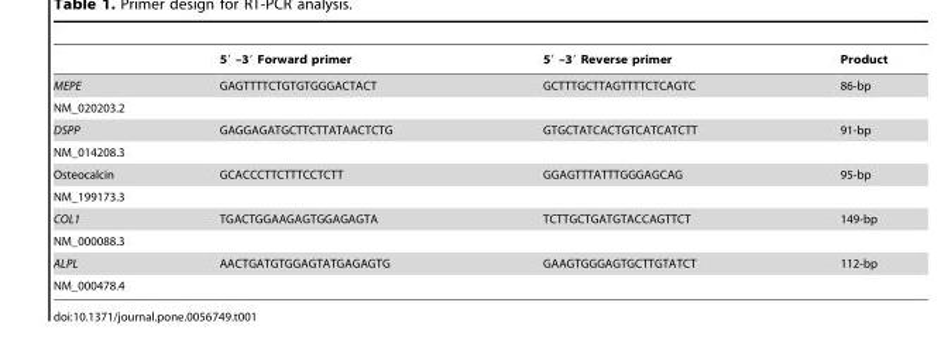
<table><thead><tr><td></td><td>5′ –3′ Forward primer</td><td>5′ –3′ Reverse primer</td><td>Product</td></tr></thead><tbody><tr><td>MEPE</td><td>GAGTTTTCTGTGTGGGACTACT</td><td>GCTTTGCTTAGTTTTCTCAGTC</td><td>86-bp</td></tr><tr><td colspan="4">NM_020203.2</td></tr><tr><td>DSPP</td><td>GAGGAGATGCTTCTTATAACTCTG</td><td>GTGCTATCACTGTCATCATCTT</td><td>91-bp</td></tr><tr><td colspan="4">NM_014208.3</td></tr><tr><td>Osteocalcin</td><td>GCACCCTTCTTTCCTCTT</td><td>GGAGTTTATTTGGGAGCAG</td><td>95-bp</td></tr><tr><td colspan="4">NM_199173.3</td></tr><tr><td>COL1</td><td>TGACTGGAAGAGTGGAGAGTA</td><td>TCTTGCTGATGTACCAGTTCT</td><td>149-bp</td></tr><tr><td colspan="4">NM_000088.3</td></tr><tr><td>ALPL</td><td>AACTGATGTGGAGTATGAGAGTG</td><td>GAAGTGGGAGTGCTTGTATCT</td><td>112-bp</td></tr><tr><td>NM_000478.4</td><td></td><td></td><td></td></tr></tbody></table>